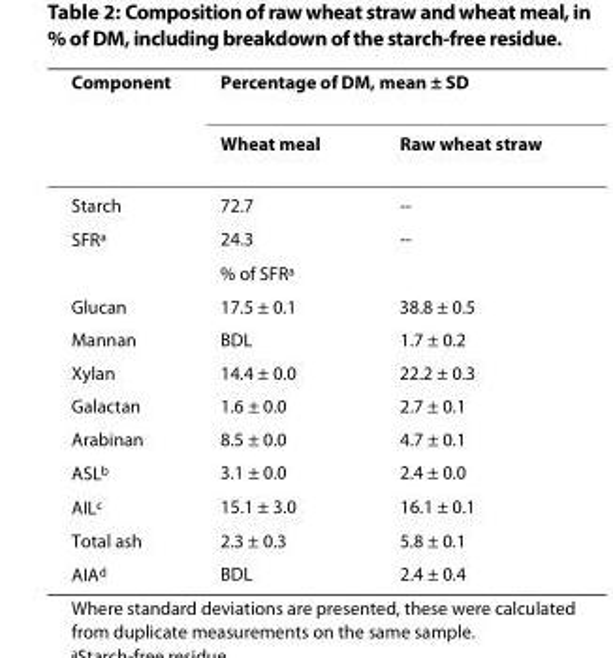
<table><thead><tr><td rowspan="2">Component</td><td colspan="2">Percentage of DM, mean ± SD</td></tr><tr><td>Wheat meal</td><td>Raw wheat straw</td></tr></thead><tbody><tr><td>Starch</td><td>72.7</td><td>--</td></tr><tr><td rowspan="2">SFR<sup>a</sup></td><td>24.3</td><td>--</td></tr><tr><td>% of SFR<sup>a</sup></td><td></td></tr><tr><td>Glucan</td><td>17.5 ± 0.1</td><td>38.8 ± 0.5</td></tr><tr><td>Mannan</td><td>BDL</td><td>1.7 ± 0.2</td></tr><tr><td>Xylan</td><td>14.4 ± 0.0</td><td>22.2 ± 0.3</td></tr><tr><td>Galactan</td><td>1.6 ± 0.0</td><td>2.7 ± 0.1</td></tr><tr><td>Arabinan</td><td>8.5 ± 0.0</td><td>4.7 ± 0.1</td></tr><tr><td>ASL<sup>b</sup></td><td>3.1 ± 0.0</td><td>2.4 ± 0.0</td></tr><tr><td>AIL<sup>c</sup></td><td>15.1 ± 3.0</td><td>16.1 ± 0.1</td></tr><tr><td>Total ash</td><td>2.3 ± 0.3</td><td>5.8 ± 0.1</td></tr><tr><td>AIA<sup>d</sup></td><td>BDL</td><td>2.4 ± 0.4</td></tr></tbody></table>